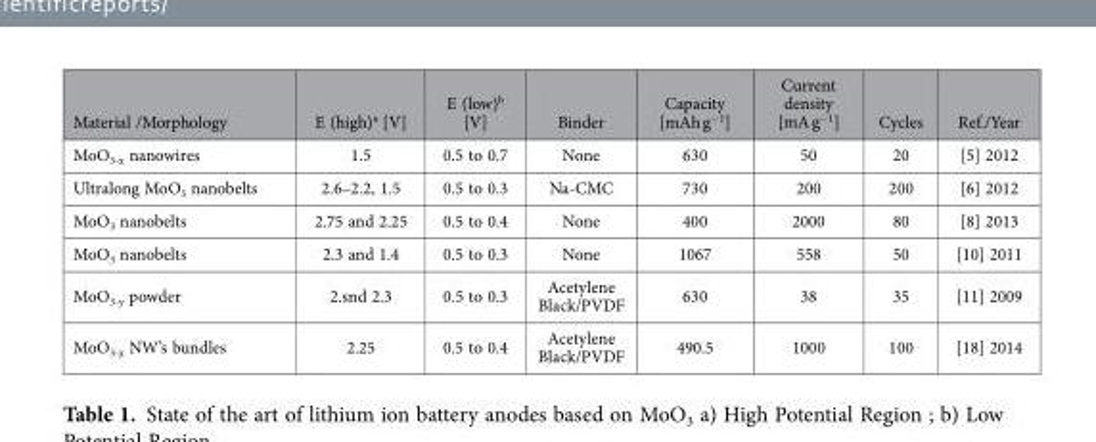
<table><thead><tr><td>Material /Morphology</td><td>E (high)<sup>a</sup> [V]</td><td>E (low)<sup>b</sup> [V]</td><td>Binder</td><td>Capacity [mAh g<sup>−1</sup>]</td><td>Current density [mA g<sup>−1</sup>]</td><td>Cycles</td><td>Ref./Year</td></tr></thead><tbody><tr><td>MoO<sub>3-x</sub> nanowires</td><td>1.5</td><td>0.5 to 0.7</td><td>None</td><td>630</td><td>50</td><td>20</td><td>[5] 2012</td></tr><tr><td>Ultralong MoO<sub>3</sub> nanobelts</td><td>2.6–2.2, 1.5</td><td>0.5 to 0.3</td><td>Na-CMC</td><td>730</td><td>200</td><td>200</td><td>[6] 2012</td></tr><tr><td>MoO<sub>3</sub> nanobelts</td><td>2.75 and 2.25</td><td>0.5 to 0.4</td><td>None</td><td>400</td><td>2000</td><td>80</td><td>[8] 2013</td></tr><tr><td>MoO<sub>3</sub> nanobelts</td><td>2.3 and 1.4</td><td>0.5 to 0.3</td><td>None</td><td>1067</td><td>558</td><td>50</td><td>[10] 2011</td></tr><tr><td>MoO<sub>3-y</sub> powder</td><td>2.snd 2.3</td><td>0.5 to 0.3</td><td>Acetylene Black/PVDF</td><td>630</td><td>38</td><td>35</td><td>[11] 2009</td></tr><tr><td>MoO<sub>3-x</sub> NW’s bundles</td><td>2.25</td><td>0.5 to 0.4</td><td>Acetylene Black/PVDF</td><td>490.5</td><td>1000</td><td>100</td><td>[18] 2014</td></tr></tbody></table>